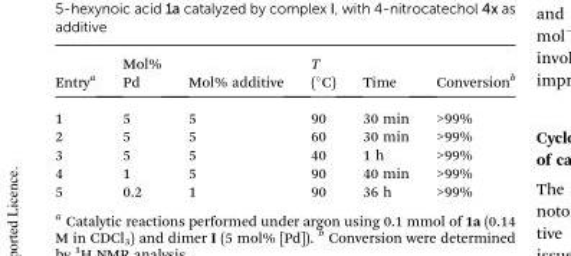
<table><thead><tr><td>Entry<sup>a</sup></td><td>Mol% Pd</td><td>Mol% additive</td><td>T (°C)</td><td>Time</td><td>Conversion<sup>b</sup></td></tr></thead><tbody><tr><td>1</td><td>5</td><td>5</td><td>90</td><td>30 min</td><td>&gt;99%</td></tr><tr><td>2</td><td>5</td><td>5</td><td>60</td><td>30 min</td><td>&gt;99%</td></tr><tr><td>3</td><td>5</td><td>5</td><td>40</td><td>1 h</td><td>&gt;99%</td></tr><tr><td>4</td><td>1</td><td>5</td><td>90</td><td>40 min</td><td>&gt;99%</td></tr><tr><td>5</td><td>0.2</td><td>1</td><td>90</td><td>36 h</td><td>&gt;99%</td></tr></tbody></table>